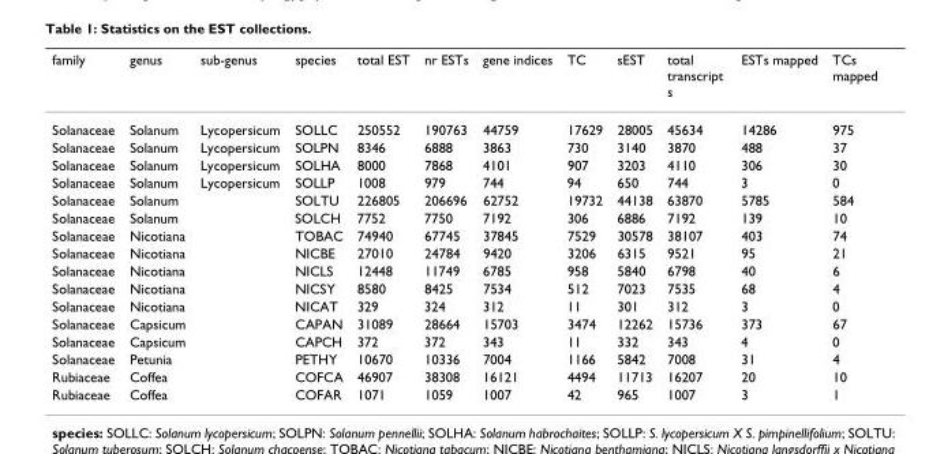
<table><thead><tr><td>family</td><td>genus</td><td>sub-genus</td><td>species</td><td>total EST</td><td>nr ESTs</td><td>gene indices</td><td>TC</td><td>sEST</td><td>total transcript s</td><td>ESTs mapped</td><td>TCs mapped</td></tr></thead><tbody><tr><td>Solanaceae</td><td>Solanum</td><td>Lycopersicum</td><td>SOLLC</td><td>250552</td><td>190763</td><td>44759</td><td>17629</td><td>28005</td><td>45634</td><td>14286</td><td>975</td></tr><tr><td>Solanaceae</td><td>Solanum</td><td>Lycopersicum</td><td>SOLPN</td><td>8346</td><td>6888</td><td>3863</td><td>730</td><td>3140</td><td>3870</td><td>488</td><td>37</td></tr><tr><td>Solanaceae</td><td>Solanum</td><td>Lycopersicum</td><td>SOLHA</td><td>8000</td><td>7868</td><td>4101</td><td>907</td><td>3203</td><td>4110</td><td>306</td><td>30</td></tr><tr><td>Solanaceae</td><td>Solanum</td><td>Lycopersicum</td><td>SOLLP</td><td>1008</td><td>979</td><td>744</td><td>94</td><td>650</td><td>744</td><td>3</td><td>0</td></tr><tr><td>Solanaceae</td><td>Solanum</td><td></td><td>SOLTU</td><td>226805</td><td>206696</td><td>62752</td><td>19732</td><td>44138</td><td>63870</td><td>5785</td><td>584</td></tr><tr><td>Solanaceae</td><td>Solanum</td><td></td><td>SOLCH</td><td>7752</td><td>7750</td><td>7192</td><td>306</td><td>6886</td><td>7192</td><td>139</td><td>10</td></tr><tr><td>Solanaceae</td><td>Nicotiana</td><td></td><td>TOBAC</td><td>74940</td><td>67745</td><td>37845</td><td>7529</td><td>30578</td><td>38107</td><td>403</td><td>74</td></tr><tr><td>Solanaceae</td><td>Nicotiana</td><td></td><td>NICBE</td><td>27010</td><td>24784</td><td>9420</td><td>3206</td><td>6315</td><td>9521</td><td>95</td><td>21</td></tr><tr><td>Solanaceae</td><td>Nicotiana</td><td></td><td>NICLS</td><td>12448</td><td>11749</td><td>6785</td><td>958</td><td>5840</td><td>6798</td><td>40</td><td>6</td></tr><tr><td>Solanaceae</td><td>Nicotiana</td><td></td><td>NICSY</td><td>8580</td><td>8425</td><td>7534</td><td>512</td><td>7023</td><td>7535</td><td>68</td><td>4</td></tr><tr><td>Solanaceae</td><td>Nicotiana</td><td></td><td>NICAT</td><td>329</td><td>324</td><td>312</td><td>11</td><td>301</td><td>312</td><td>3</td><td>0</td></tr><tr><td>Solanaceae</td><td>Capsicum</td><td></td><td>CAPAN</td><td>31089</td><td>28664</td><td>15703</td><td>3474</td><td>12262</td><td>15736</td><td>373</td><td>67</td></tr><tr><td>Solanaceae</td><td>Capsicum</td><td></td><td>CAPCH</td><td>372</td><td>372</td><td>343</td><td>11</td><td>332</td><td>343</td><td>4</td><td>0</td></tr><tr><td>Solanaceae</td><td>Petunia</td><td></td><td>PETHY</td><td>10670</td><td>10336</td><td>7004</td><td>1166</td><td>5842</td><td>7008</td><td>31</td><td>4</td></tr><tr><td>Rubiaceae</td><td>Coffea</td><td></td><td>COFCA</td><td>46907</td><td>38308</td><td>16121</td><td>4494</td><td>11713</td><td>16207</td><td>20</td><td>10</td></tr><tr><td>Rubiaceae</td><td>Coffea</td><td></td><td>COFAR</td><td>1071</td><td>1059</td><td>1007</td><td>42</td><td>965</td><td>1007</td><td>3</td><td>1</td></tr></tbody></table>